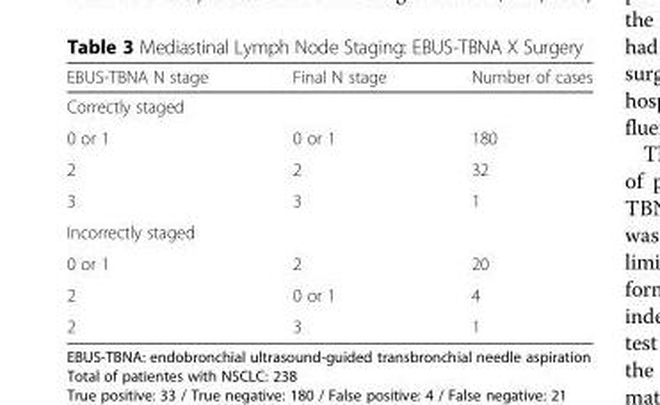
<table><thead><tr><td>EBUS-TBNA N stage</td><td>Final N stage</td><td>Number of cases</td></tr></thead><tbody><tr><td colspan="3">Correctly staged</td></tr><tr><td>0 or 1</td><td>0 or 1</td><td>180</td></tr><tr><td>2</td><td>2</td><td>32</td></tr><tr><td>3</td><td>3</td><td>1</td></tr><tr><td colspan="3">Incorrectly staged</td></tr><tr><td>0 or 1</td><td>2</td><td>20</td></tr><tr><td>2</td><td>0 or 1</td><td>4</td></tr><tr><td>2</td><td>3</td><td>1</td></tr></tbody></table>